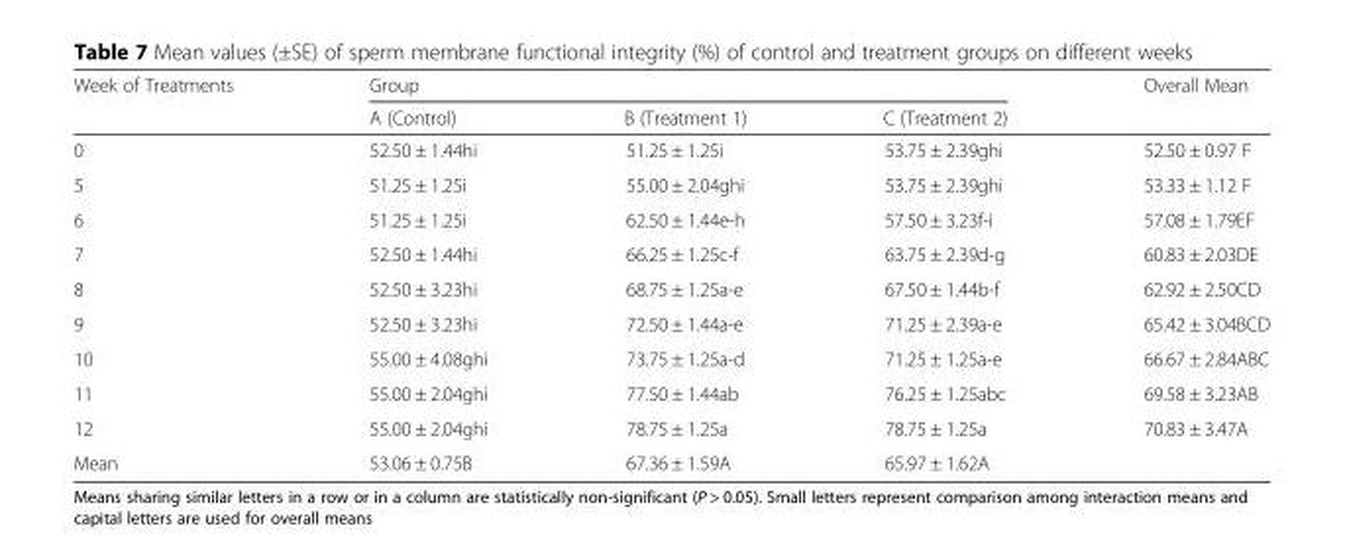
<table><thead><tr><td rowspan="2">Week of Treatments</td><td colspan="3">Group</td><td rowspan="2">Overall Mean</td></tr><tr><td>A (Control)</td><td>B (Treatment 1)</td><td>C (Treatment 2)</td></tr></thead><tbody><tr><td>0</td><td>52.50 ± 1.44hi</td><td>51.25 ± 1.25i</td><td>53.75 ± 2.39ghi</td><td>52.50 ± 0.97 F</td></tr><tr><td>5</td><td>51.25 ± 1.25i</td><td>55.00 ± 2.04ghi</td><td>53.75 ± 2.39ghi</td><td>53.33 ± 1.12 F</td></tr><tr><td>6</td><td>51.25 ± 1.25i</td><td>62.50 ± 1.44e-h</td><td>57.50 ± 3.23f-i</td><td>57.08 ± 1.79EF</td></tr><tr><td>7</td><td>52.50 ± 1.44hi</td><td>66.25 ± 1.25c-f</td><td>63.75 ± 2.39d-g</td><td>60.83 ± 2.03DE</td></tr><tr><td>8</td><td>52.50 ± 3.23hi</td><td>68.75 ± 1.25a-e</td><td>67.50 ± 1.44b-f</td><td>62.92 ± 2.50CD</td></tr><tr><td>9</td><td>52.50 ± 3.23hi</td><td>72.50 ± 1.44a-e</td><td>71.25 ± 2.39a-e</td><td>65.42 ± 3.04BCD</td></tr><tr><td>10</td><td>55.00 ± 4.08ghi</td><td>73.75 ± 1.25a-d</td><td>71.25 ± 1.25a-e</td><td>66.67 ± 2.84ABC</td></tr><tr><td>11</td><td>55.00 ± 2.04ghi</td><td>77.50 ± 1.44ab</td><td>76.25 ± 1.25abc</td><td>69.58 ± 3.23AB</td></tr><tr><td>12</td><td>55.00 ± 2.04ghi</td><td>78.75 ± 1.25a</td><td>78.75 ± 1.25a</td><td>70.83 ± 3.47A</td></tr><tr><td>Mean</td><td>53.06 ± 0.75B</td><td>67.36 ± 1.59A</td><td>65.97 ± 1.62A</td><td></td></tr></tbody></table>